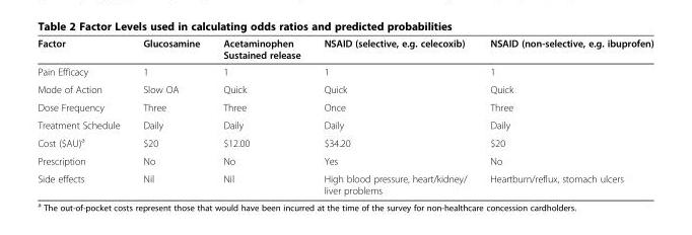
<table><thead><tr><td>Factor</td><td>Glucosamine</td><td>Acetaminophen Sustained release</td><td>NSAID (selective, e.g. celecoxib)</td><td>NSAID (non-selective, e.g. ibuprofen)</td></tr></thead><tbody><tr><td>Pain Efficacy</td><td>1</td><td>1</td><td>1</td><td>1</td></tr><tr><td>Mode of Action</td><td>Slow OA</td><td>Quick</td><td>Quick</td><td>Quick</td></tr><tr><td>Dose Frequency</td><td>Three</td><td>Three</td><td>Once</td><td>Three</td></tr><tr><td>Treatment Schedule</td><td>Daily</td><td>Daily</td><td>Daily</td><td>Daily</td></tr><tr><td>Cost ($AU)<sup>a</sup></td><td>$20</td><td>$12.00</td><td>$34.20</td><td>$20</td></tr><tr><td>Prescription</td><td>No</td><td>No</td><td>Yes</td><td>No</td></tr><tr><td>Side effects</td><td>Nil</td><td>Nil</td><td>High blood pressure, heart/kidney/ liver problems</td><td>Heartburn/reflux, stomach ulcers</td></tr></tbody></table>